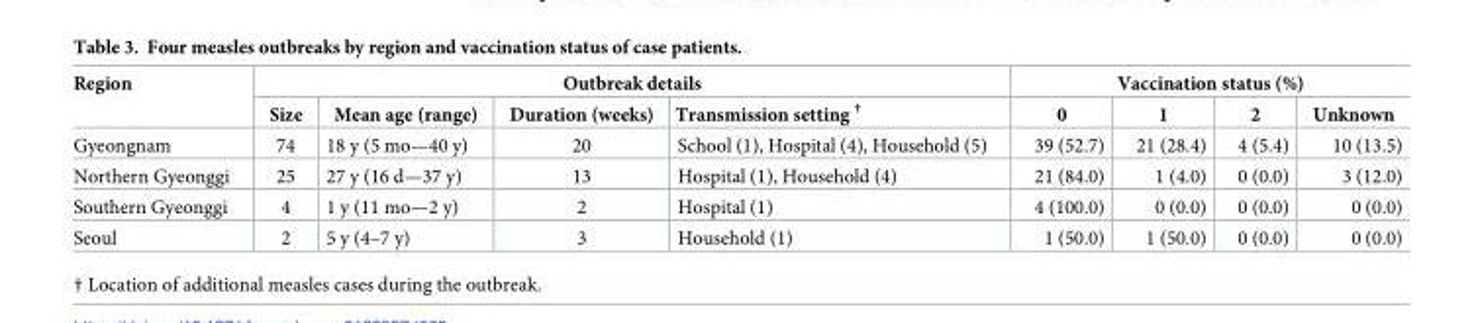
<table><thead><tr><td rowspan="2">Region</td><td colspan="4">Outbreak details</td><td colspan="4">Vaccination status (%)</td></tr><tr><td>Size</td><td>Mean age (range)</td><td>Duration (weeks)</td><td>Transmission setting <sup>†</sup></td><td>0</td><td>1</td><td>2</td><td>Unknown</td></tr></thead><tbody><tr><td>Gyeongnam</td><td>74</td><td>18 y (5 mo—40 y)</td><td>20</td><td>School (1), Hospital (4), Household (5)</td><td>39 (52.7)</td><td>21 (28.4)</td><td>4 (5.4)</td><td>10 (13.5)</td></tr><tr><td>Northern Gyeonggi</td><td>25</td><td>27 y (16 d—37 y)</td><td>13</td><td>Hospital (1), Household (4)</td><td>21 (84.0)</td><td>1 (4.0)</td><td>0 (0.0)</td><td>3 (12.0)</td></tr><tr><td>Southern Gyeonggi</td><td>4</td><td>1 y (11 mo—2 y)</td><td>2</td><td>Hospital (1)</td><td>4 (100.0)</td><td>0 (0.0)</td><td>0 (0.0)</td><td>0 (0.0)</td></tr><tr><td>Seoul</td><td>2</td><td>5 y (4–7 y)</td><td>3</td><td>Household (1)</td><td>1 (50.0)</td><td>1 (50.0)</td><td>0 (0.0)</td><td>0 (0.0)</td></tr></tbody></table>